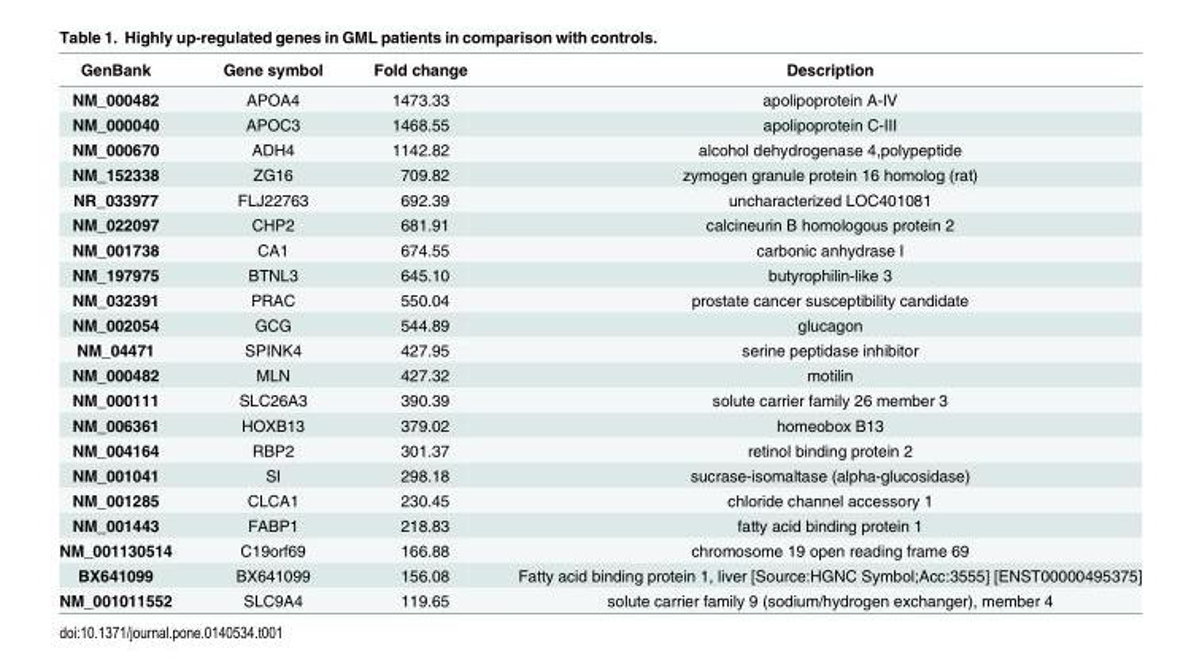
<table><thead><tr><td>GenBank</td><td>Gene symbol</td><td>Fold change</td><td>Description</td></tr></thead><tbody><tr><td>NM_000482</td><td>APOA4</td><td>1473.33</td><td>apolipoprotein A-IV</td></tr><tr><td>NM_000040</td><td>APOC3</td><td>1468.55</td><td>apolipoprotein C-III</td></tr><tr><td>NM_000670</td><td>ADH4</td><td>1142.82</td><td>alcohol dehydrogenase 4,polypeptide</td></tr><tr><td>NM_152338</td><td>ZG16</td><td>709.82</td><td>zymogen granule protein 16 homolog (rat)</td></tr><tr><td>NR_033977</td><td>FLJ22763</td><td>692.39</td><td>uncharacterized LOC401081</td></tr><tr><td>NM_022097</td><td>CHP2</td><td>681.91</td><td>calcineurin B homologous protein 2</td></tr><tr><td>NM_001738</td><td>CA1</td><td>674.55</td><td>carbonic anhydrase I</td></tr><tr><td>NM_197975</td><td>BTNL3</td><td>645.10</td><td>butyrophilin-like 3</td></tr><tr><td>NM_032391</td><td>PRAC</td><td>550.04</td><td>prostate cancer susceptibility candidate</td></tr><tr><td>NM_002054</td><td>GCG</td><td>544.89</td><td>glucagon</td></tr><tr><td>NM_04471</td><td>SPINK4</td><td>427.95</td><td>serine peptidase inhibitor</td></tr><tr><td>NM_000482</td><td>MLN</td><td>427.32</td><td>motilin</td></tr><tr><td>NM_000111</td><td>SLC26A3</td><td>390.39</td><td>solute carrier family 26 member 3</td></tr><tr><td>NM_006361</td><td>HOXB13</td><td>379.02</td><td>homeobox B13</td></tr><tr><td>NM_004164</td><td>RBP2</td><td>301.37</td><td>retinol binding protein 2</td></tr><tr><td>NM_001041</td><td>SI</td><td>298.18</td><td>sucrase-isomaltase (alpha-glucosidase)</td></tr><tr><td>NM_001285</td><td>CLCA1</td><td>230.45</td><td>chloride channel accessory 1</td></tr><tr><td>NM_001443</td><td>FABP1</td><td>218.83</td><td>fatty acid binding protein 1</td></tr><tr><td>NM_001130514</td><td>C19orf69</td><td>166.88</td><td>chromosome 19 open reading frame 69</td></tr><tr><td>BX641099</td><td>BX641099</td><td>156.08</td><td>Fatty acid binding protein 1, liver [Source:HGNC Symbol;Acc:3555] [ENST00000495375]</td></tr><tr><td>NM_001011552</td><td>SLC9A4</td><td>119.65</td><td>solute carrier family 9 (sodium/hydrogen exchanger), member 4</td></tr></tbody></table>